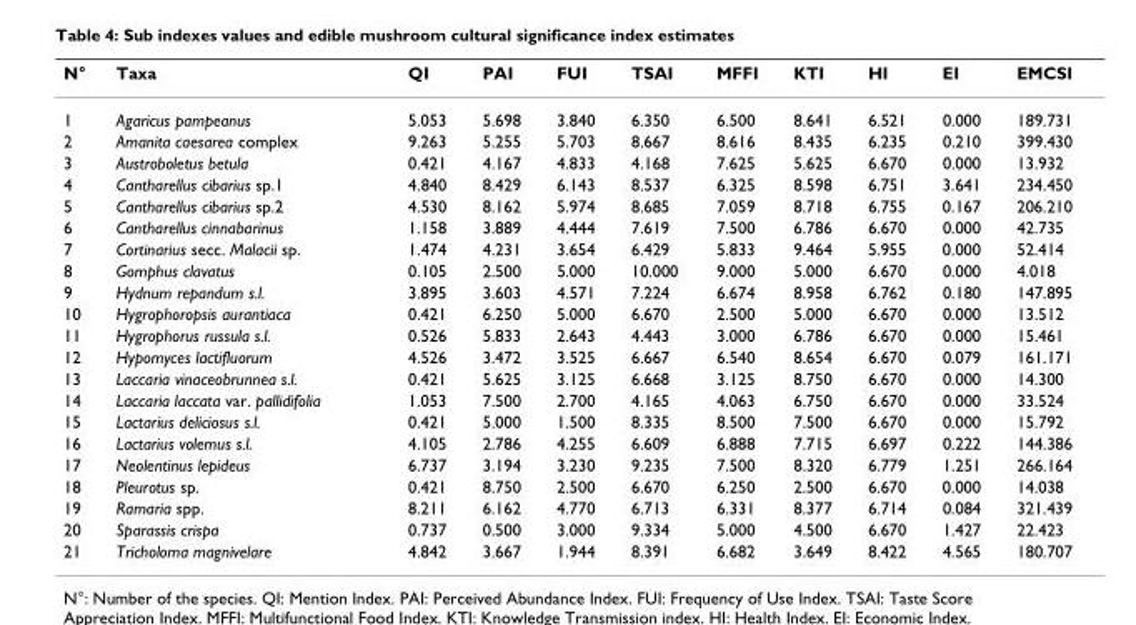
<table><thead><tr><td>N°</td><td>Taxa</td><td>QI</td><td>PAI</td><td>FUI</td><td>TSAI</td><td>MFFI</td><td>KTI</td><td>HI</td><td>EI</td><td>EMCSI</td></tr></thead><tbody><tr><td>1</td><td>Agaricus pampeanus</td><td>5.053</td><td>5.698</td><td>3.840</td><td>6.350</td><td>6.500</td><td>8.641</td><td>6.521</td><td>0.000</td><td>189.731</td></tr><tr><td>2</td><td>Amanita caesarea complex</td><td>9.263</td><td>5.255</td><td>5.703</td><td>8.667</td><td>8.616</td><td>8.435</td><td>6.235</td><td>0.210</td><td>399.430</td></tr><tr><td>3</td><td>Austroboletus betula</td><td>0.421</td><td>4.167</td><td>4.833</td><td>4.168</td><td>7.625</td><td>5.625</td><td>6.670</td><td>0.000</td><td>13.932</td></tr><tr><td>4</td><td>Cantharellus cibarius sp.1</td><td>4.840</td><td>8.429</td><td>6.143</td><td>8.537</td><td>6.325</td><td>8.598</td><td>6.751</td><td>3.641</td><td>234.450</td></tr><tr><td>5</td><td>Cantharellus cibarius sp.2</td><td>4.530</td><td>8.162</td><td>5.974</td><td>8.685</td><td>7.059</td><td>8.718</td><td>6.755</td><td>0.167</td><td>206.210</td></tr><tr><td>6</td><td>Cantharellus cinnabarinus</td><td>1.158</td><td>3.889</td><td>4.444</td><td>7.619</td><td>7.500</td><td>6.786</td><td>6.670</td><td>0.000</td><td>42.735</td></tr><tr><td>7</td><td>Cortinarius secc. Malacii sp.</td><td>1.474</td><td>4.231</td><td>3.654</td><td>6.429</td><td>5.833</td><td>9.464</td><td>5.955</td><td>0.000</td><td>52.414</td></tr><tr><td>8</td><td>Gomphus clavatus</td><td>0.105</td><td>2.500</td><td>5.000</td><td>10.000</td><td>9.000</td><td>5.000</td><td>6.670</td><td>0.000</td><td>4.018</td></tr><tr><td>9</td><td>Hydnum repandum s.l.</td><td>3.895</td><td>3.603</td><td>4.571</td><td>7.224</td><td>6.674</td><td>8.958</td><td>6.762</td><td>0.180</td><td>147.895</td></tr><tr><td>10</td><td>Hygrophoropsis aurantiaca</td><td>0.421</td><td>6.250</td><td>5.000</td><td>6.670</td><td>2.500</td><td>5.000</td><td>6.670</td><td>0.000</td><td>13.512</td></tr><tr><td>11</td><td>Hygrophorus russula s.l.</td><td>0.526</td><td>5.833</td><td>2.643</td><td>4.443</td><td>3.000</td><td>6.786</td><td>6.670</td><td>0.000</td><td>15.461</td></tr><tr><td>12</td><td>Hypomyces lactifluorum</td><td>4.526</td><td>3.472</td><td>3.525</td><td>6.667</td><td>6.540</td><td>8.654</td><td>6.670</td><td>0.079</td><td>161.171</td></tr><tr><td>13</td><td>Laccaria vinaceobrunnea s.l.</td><td>0.421</td><td>5.625</td><td>3.125</td><td>6.668</td><td>3.125</td><td>8.750</td><td>6.670</td><td>0.000</td><td>14.300</td></tr><tr><td>14</td><td>Laccaria laccata var. pallidifolia</td><td>1.053</td><td>7.500</td><td>2.700</td><td>4.165</td><td>4.063</td><td>6.750</td><td>6.670</td><td>0.000</td><td>33.524</td></tr><tr><td>15</td><td>Lactarius deliciosus s.l.</td><td>0.421</td><td>5.000</td><td>1.500</td><td>8.335</td><td>8.500</td><td>7.500</td><td>6.670</td><td>0.000</td><td>15.792</td></tr><tr><td>16</td><td>Lactarius volemus s.l.</td><td>4.105</td><td>2.786</td><td>4.255</td><td>6.609</td><td>6.888</td><td>7.715</td><td>6.697</td><td>0.222</td><td>144.386</td></tr><tr><td>17</td><td>Neolentinus lepideus</td><td>6.737</td><td>3.194</td><td>3.230</td><td>9.235</td><td>7.500</td><td>8.320</td><td>6.779</td><td>1.251</td><td>266.164</td></tr><tr><td>18</td><td>Pleurotus sp.</td><td>0.421</td><td>8.750</td><td>2.500</td><td>6.670</td><td>6.250</td><td>2.500</td><td>6.670</td><td>0.000</td><td>14.038</td></tr><tr><td>19</td><td>Ramaria spp.</td><td>8.211</td><td>6.162</td><td>4.770</td><td>6.713</td><td>6.331</td><td>8.377</td><td>6.714</td><td>0.084</td><td>321.439</td></tr><tr><td>20</td><td>Sparassis crispa</td><td>0.737</td><td>0.500</td><td>3.000</td><td>9.334</td><td>5.000</td><td>4.500</td><td>6.670</td><td>1.427</td><td>22.423</td></tr><tr><td>21</td><td>Tricholoma magnivelare</td><td>4.842</td><td>3.667</td><td>1.944</td><td>8.391</td><td>6.682</td><td>3.649</td><td>8.422</td><td>4.565</td><td>180.707</td></tr></tbody></table>